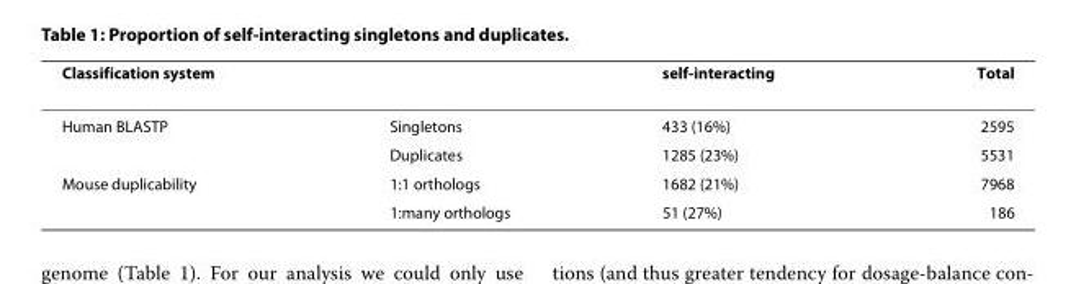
<table><thead><tr><td>Classification system</td><td></td><td>self-interacting</td><td>Total</td></tr></thead><tbody><tr><td rowspan="2">Human BLASTP</td><td>Singletons</td><td>433 (16%)</td><td>2595</td></tr><tr><td>Duplicates</td><td>1285 (23%)</td><td>5531</td></tr><tr><td rowspan="2">Mouse duplicability</td><td>1:1 orthologs</td><td>1682 (21%)</td><td>7968</td></tr><tr><td>1:many orthologs</td><td>51 (27%)</td><td>186</td></tr></tbody></table>